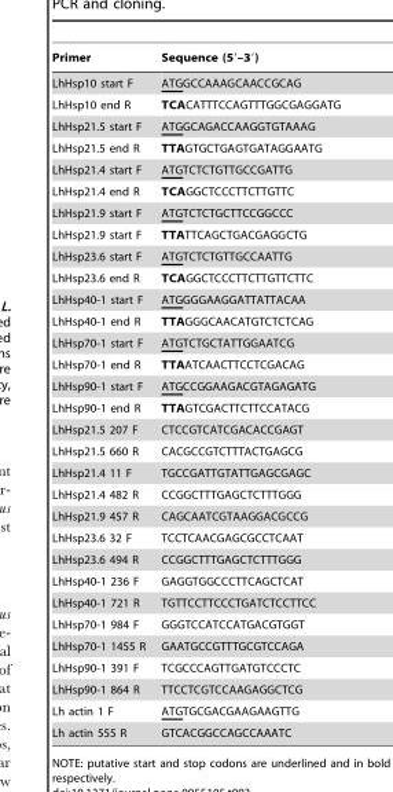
<table><thead><tr><td>Primer</td><td>Sequence (5′–3′)</td></tr></thead><tbody><tr><td>LhHsp10 start F</td><td>ATGGCCAAAGCAACCGCAG</td></tr><tr><td>LhHsp10 end R</td><td>TCACATTTCCAGTTTGGCGAGGATG</td></tr><tr><td>LhHsp21.5 start F</td><td>ATGGCAGACCAAGGTGTAAAG</td></tr><tr><td>LhHsp21.5 end R</td><td>TTAGTGCTGAGTGATAGGAATG</td></tr><tr><td>LhHsp21.4 start F</td><td>ATGTCTCTGTTGCCGATTG</td></tr><tr><td>LhHsp21.4 end R</td><td>TCAGGCTCCCTTCTTGTTC</td></tr><tr><td>LhHsp21.9 start F</td><td>ATGTCTCTGCTTCCGGCCC</td></tr><tr><td>LhHsp21.9 start F</td><td>TTATTCAGCTGACGAGGCTG</td></tr><tr><td>LhHsp23.6 start F</td><td>ATGTCTCTGTTGCCAATTG</td></tr><tr><td>LhHsp23.6 end R</td><td>TCAGGCTCCCTTCTTGTTCTTC</td></tr><tr><td>LhHsp40-1 start F</td><td>ATGGGGAAGGATTATTACAA</td></tr><tr><td>LhHsp40-1 end R</td><td>TTAGGGCAACATGTCTCTCAG</td></tr><tr><td>LhHsp70-1 start F</td><td>ATGTCTGCTATTGGAATCG</td></tr><tr><td>LhHsp70-1 end R</td><td>TTAATCAACTTCCTCGACAG</td></tr><tr><td>LhHsp90-1 start F</td><td>ATGCCGGAAGACGTAGAGATG</td></tr><tr><td>LhHsp90-1 end R</td><td>TTAGTCGACTTCTTCCATACG</td></tr><tr><td>LhHsp21.5 207 F</td><td>CTCCGTCATCGACACCGAGT</td></tr><tr><td>LhHsp21.5 660 R</td><td>CACGCCGTCTTTACTGAGCG</td></tr><tr><td>LhHsp21.4 11 F</td><td>TGCCGATTGTATTGAGCGAGC</td></tr><tr><td>LhHsp21.4 482 R</td><td>CCGGCTTTGAGCTCTTTGGG</td></tr><tr><td>LhHsp21.9 457 R</td><td>CAGCAATCGTAAGGACGCCG</td></tr><tr><td>LhHsp23.6 32 F</td><td>TCCTCAACGAGCGCCTCAAT</td></tr><tr><td>LhHsp23.6 494 R</td><td>CCGGCTTTGAGCTCTTTGGG</td></tr><tr><td>LhHsp40-1 236 F</td><td>GAGGTGGCCCTTCAGCTCAT</td></tr><tr><td>LhHsp40-1 721 R</td><td>TGTTCCTTCCCTGATCTCCTTCC</td></tr><tr><td>LhHsp70-1 984 F</td><td>GGGTCCATCCATGACGTGGT</td></tr><tr><td>LhHsp70-1 1455 R</td><td>GAATGCCGTTTGCGTCCAGA</td></tr><tr><td>LhHsp90-1 391 F</td><td>TCGCCCAGTTGATGTCCCTC</td></tr><tr><td>LhHsp90-1 864 R</td><td>TTCCTCGTCCAAGAGGCTCG</td></tr><tr><td>Lh actin 1 F</td><td>ATGTGCGACGAAGAAGTTG</td></tr><tr><td>Lh actin 555 R</td><td>GTCACGGCCAGCCAAATC</td></tr></tbody></table>